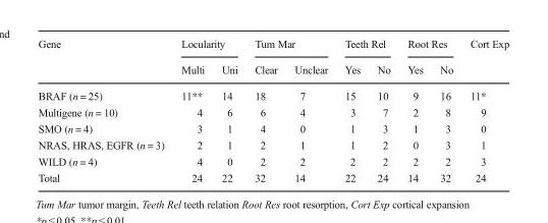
<table><thead><tr><td rowspan="2">Gene</td><td colspan="2">Locularity</td><td colspan="2">Tum Mar</td><td colspan="2">Teeth Rel</td><td colspan="2">Root Res</td><td rowspan="2">Cort Exp</td></tr><tr><td>Multi</td><td>Uni</td><td>Clear</td><td>Unclear</td><td>Yes</td><td>No</td><td>Yes</td><td>No</td></tr></thead><tbody><tr><td>BRAF (n = 25)</td><td>11**</td><td>14</td><td>18</td><td>7</td><td>15</td><td>10</td><td>9</td><td>16</td><td>11*</td></tr><tr><td>Multigene (n = 10)</td><td>4</td><td>6</td><td>6</td><td>4</td><td>3</td><td>7</td><td>2</td><td>8</td><td>9</td></tr><tr><td>SMO (n = 4)</td><td>3</td><td>1</td><td>4</td><td>0</td><td>1</td><td>3</td><td>1</td><td>3</td><td>0</td></tr><tr><td>NRAS, HRAS, EGFR (n = 3)</td><td>2</td><td>1</td><td>2</td><td>1</td><td>1</td><td>2</td><td>0</td><td>3</td><td>1</td></tr><tr><td>WILD (n = 4)</td><td>4</td><td>0</td><td>2</td><td>2</td><td>2</td><td>2</td><td>2</td><td>2</td><td>3</td></tr><tr><td>Total</td><td>24</td><td>22</td><td>32</td><td>14</td><td>22</td><td>24</td><td>14</td><td>32</td><td>24</td></tr></tbody></table>